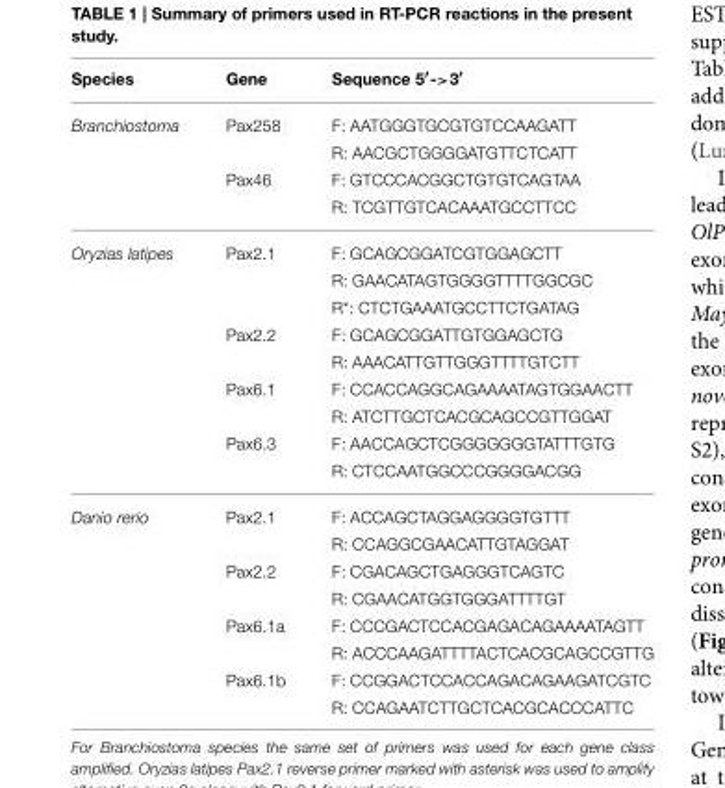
<table><thead><tr><td>Species</td><td>Gene</td><td>Sequence 5′-&gt;3′</td></tr></thead><tbody><tr><td rowspan="4">Branchiostoma</td><td>Pax258</td><td>F: AATGGGTGCGTGTCCAAGATT</td></tr><tr><td></td><td>R: AACGCTGGGGATGTTCTCATT</td></tr><tr><td>Pax46</td><td>F: GTCCCACGGCTGTGTCAGTAA</td></tr><tr><td></td><td>R: TCGTTGTCACAAATGCCTTCC</td></tr><tr><td rowspan="9">Oryzias latipes</td><td>Pax2.1</td><td>F: GCAGCGGATCGTGGAGCTT</td></tr><tr><td></td><td>R: GAACATAGTGGGGTTTTGGCGC</td></tr><tr><td></td><td>R*: CTCTGAAATGCCTTCTGATAG</td></tr><tr><td>Pax2.2</td><td>F: GCAGCGGATTGTGGAGCTG</td></tr><tr><td></td><td>R: AAACATTGTTGGGTTTTGTCTT</td></tr><tr><td>Pax6.1</td><td>F: CCACCAGGCAGAAAATAGTGGAACTT</td></tr><tr><td></td><td>R: ATCTTGCTCACGCAGCCGTTGGAT</td></tr><tr><td>Pax6.3</td><td>F: AACCAGCTCGGGGGGGTATTTGTG</td></tr><tr><td></td><td>R: CTCCAATGGCCCGGGGACGG</td></tr><tr><td rowspan="8">Danio rerio</td><td>Pax2.1</td><td>F: ACCAGCTAGGAGGGGTGTTT</td></tr><tr><td></td><td>R: CCAGGCGAACATTGTAGGAT</td></tr><tr><td>Pax2.2</td><td>F: CGACAGCTGAGGGTCAGTC</td></tr><tr><td></td><td>R: CGAACATGGTGGGATTTTGT</td></tr><tr><td>Pax6.1a</td><td>F: CCCGACTCCACGAGACAGAAAATAGTT</td></tr><tr><td></td><td>R: ACCCAAGATTTTACTCACGCAGCCGTTG</td></tr><tr><td>Pax6.1b</td><td>F: CCGGACTCCACCAGACAGAAGATCGTC</td></tr><tr><td></td><td>R: CCAGAATCTTGCTCACGCACCCATTC</td></tr></tbody></table>